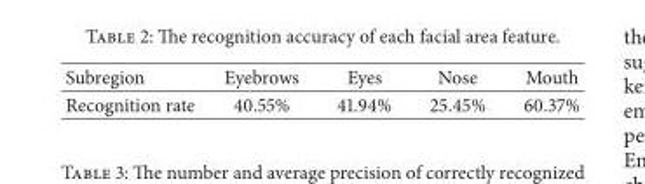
<table><thead><tr><td>Subregion</td><td>Eyebrows</td><td>Eyes</td><td>Nose</td><td>Mouth</td></tr></thead><tbody><tr><td>Recognition rate</td><td>40.55%</td><td>41.94%</td><td>25.45%</td><td>60.37%</td></tr></tbody></table>